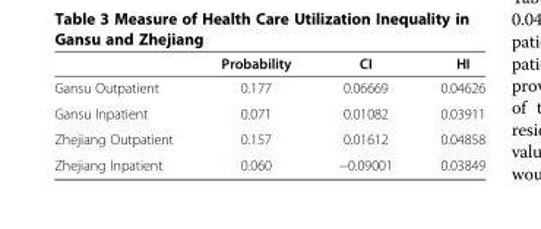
<table><thead><tr><td></td><td>Probability</td><td>CI</td><td>HI</td></tr></thead><tbody><tr><td>Gansu Outpatient</td><td>0.177</td><td>0.06669</td><td>0.04626</td></tr><tr><td>Gansu Inpatient</td><td>0.071</td><td>0.01082</td><td>0.03911</td></tr><tr><td>Zhejiang Outpatient</td><td>0.157</td><td>0.01612</td><td>0.04858</td></tr><tr><td>Zhejiang Inpatient</td><td>0.060</td><td>−0.09001</td><td>0.03849</td></tr></tbody></table>